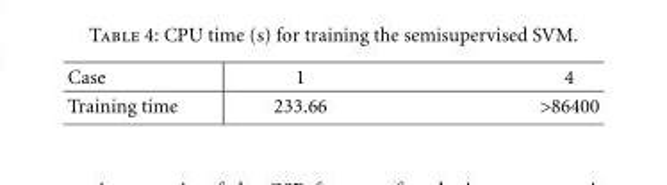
<table><thead><tr><td>Case</td><td>1</td><td>4</td></tr></thead><tbody><tr><td>Training time</td><td>233.66</td><td>&gt;86400</td></tr></tbody></table>